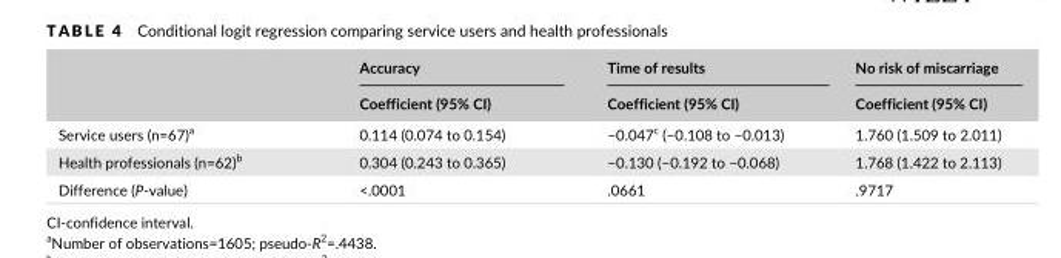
<table><thead><tr><td rowspan="2"></td><td rowspan="2">Accuracy Coefficient (95% CI)</td><td rowspan="2">Time of results Coefficient (95% CI)</td><td rowspan="2">No risk of miscarriage Coefficient (95% CI)</td></tr><tr></tr></thead><tbody><tr><td>Service users (n=67)<sup>a</sup></td><td>0.114 (0.074 to 0.154)</td><td>−0.047c (−0.108 to −0.013)</td><td>1.760 (1.509 to 2.011)</td></tr><tr><td>Health professionals (n=62)<sup>b</sup></td><td>0.304 (0.243 to 0.365)</td><td>−0.130 (−0.192 to −0.068)</td><td>1.768 (1.422 to 2.113)</td></tr><tr><td>Difference (P- value)</td><td>&lt;.0001</td><td>.0661</td><td>.9717</td></tr></tbody></table>